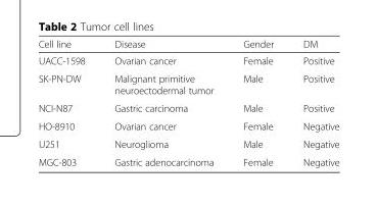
<table><thead><tr><td>Cell line</td><td>Disease</td><td>Gender</td><td>DM</td></tr></thead><tbody><tr><td>UACC-1598</td><td>Ovarian cancer</td><td>Female</td><td>Positive</td></tr><tr><td>SK-PN-DW</td><td>Malignant primitive neuroectodermal tumor</td><td>Male</td><td>Positive</td></tr><tr><td>NCI-N87</td><td>Gastric carcinoma</td><td>Male</td><td>Positive</td></tr><tr><td>HO-8910</td><td>Ovarian cancer</td><td>Female</td><td>Negative</td></tr><tr><td>U251</td><td>Neuroglioma</td><td>Male</td><td>Negative</td></tr><tr><td>MGC-803</td><td>Gastric adenocarcinoma</td><td>Female</td><td>Negative</td></tr></tbody></table>